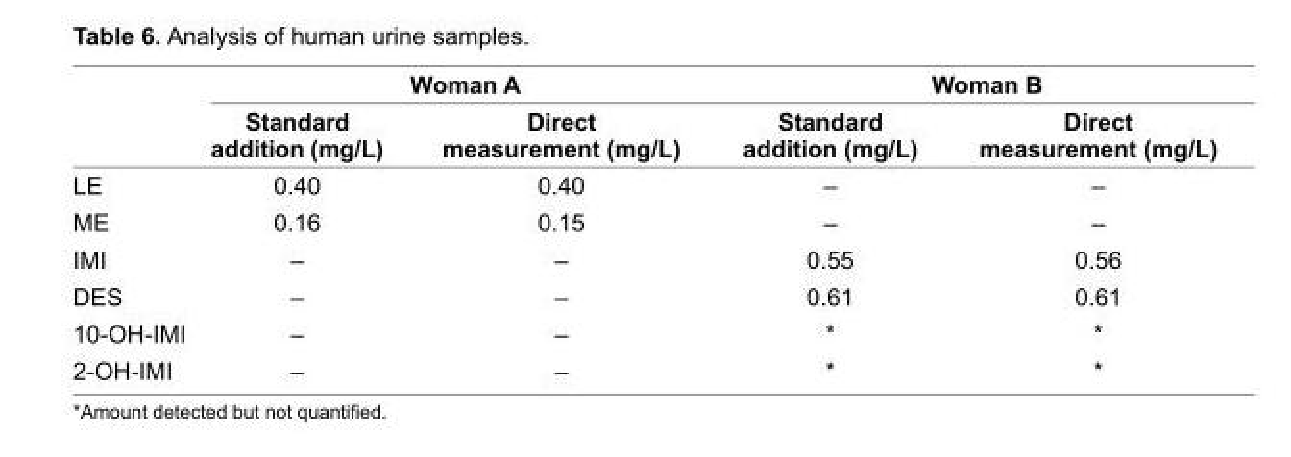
<table><thead><tr><td rowspan="2"></td><td colspan="2">Woman A</td><td colspan="2">Woman B</td></tr><tr><td>Standard addition (mg/L)</td><td>Direct measurement (mg/L)</td><td>Standard addition (mg/L)</td><td>Direct measurement (mg/L)</td></tr></thead><tbody><tr><td>LE</td><td>0.40</td><td>0.40</td><td>–</td><td>–</td></tr><tr><td>ME</td><td>0.16</td><td>0.15</td><td>–</td><td>–</td></tr><tr><td>IMI</td><td>–</td><td>–</td><td>0.55</td><td>0.56</td></tr><tr><td>DES</td><td>–</td><td>–</td><td>0.61</td><td>0.61</td></tr><tr><td>10-OH-IMI</td><td>–</td><td>–</td><td>*</td><td>*</td></tr><tr><td>2-OH-IMI</td><td>–</td><td>–</td><td>*</td><td>*</td></tr></tbody></table>